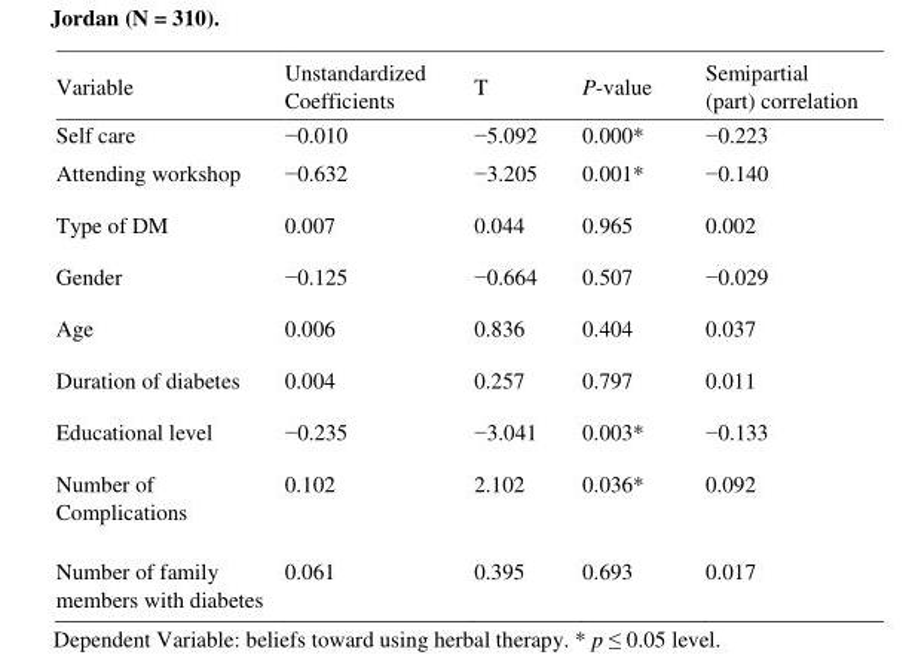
<table><thead><tr><td>Variable</td><td>Unstandardized Coefficients</td><td>T</td><td>P-value</td><td>Semipartial (part) correlation</td></tr></thead><tbody><tr><td>Self care</td><td>−0.010</td><td>−5.092</td><td>0.000*</td><td>−0.223</td></tr><tr><td>Attending workshop</td><td>−0.632</td><td>−3.205</td><td>0.001*</td><td>−0.140</td></tr><tr><td>Type of DM</td><td>0.007</td><td>0.044</td><td>0.965</td><td>0.002</td></tr><tr><td>Gender</td><td>−0.125</td><td>−0.664</td><td>0.507</td><td>−0.029</td></tr><tr><td>Age</td><td>0.006</td><td>0.836</td><td>0.404</td><td>0.037</td></tr><tr><td>Duration of diabetes</td><td>0.004</td><td>0.257</td><td>0.797</td><td>0.011</td></tr><tr><td>Educational level</td><td>−0.235</td><td>−3.041</td><td>0.003*</td><td>−0.133</td></tr><tr><td>Number of Complications</td><td>0.102</td><td>2.102</td><td>0.036*</td><td>0.092</td></tr><tr><td>Number of family members with diabetes</td><td>0.061</td><td>0.395</td><td>0.693</td><td>0.017</td></tr></tbody></table>